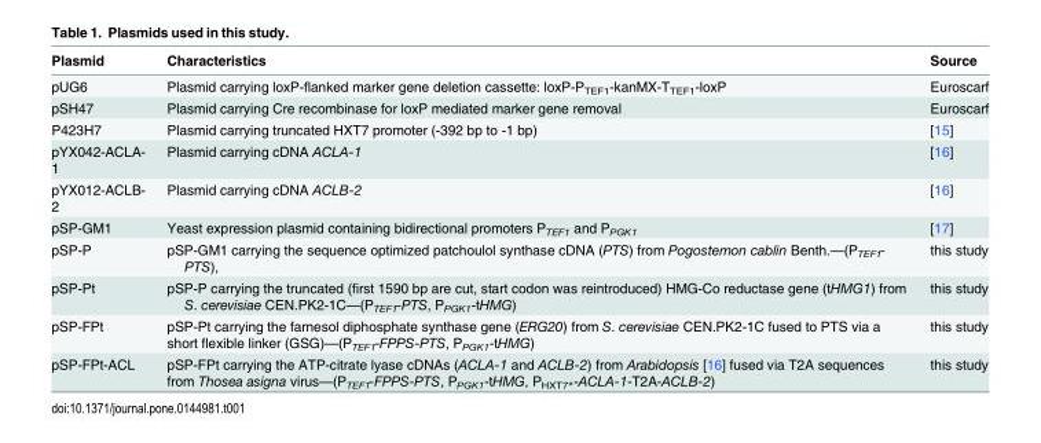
<table><thead><tr><td>Plasmid</td><td>Characteristics</td><td>Source</td></tr></thead><tbody><tr><td>pUG6</td><td>Plasmid carrying loxP-flanked marker gene deletion cassette: loxP-P<sub>TEF1</sub>-kanMX-T<sub>TEF1</sub>-loxP</td><td>Euroscarf</td></tr><tr><td>pSH47</td><td>Plasmid carrying Cre recombinase for loxP mediated marker gene removal</td><td>Euroscarf</td></tr><tr><td>P423H7</td><td>Plasmid carrying truncated HXT7 promoter (-392 bp to -1 bp)</td><td>[15]</td></tr><tr><td>pYX042-ACLA- 1</td><td>Plasmid carrying cDNA ACLA-1</td><td>[16]</td></tr><tr><td>pYX012-ACLB- 2</td><td>Plasmid carrying cDNA ACLB-2</td><td>[16]</td></tr><tr><td>pSP-GM1</td><td>Yeast expression plasmid containing bidirectional promoters P<sub>TEF1</sub> and P<sub>PGK1</sub></td><td>[17]</td></tr><tr><td>pSP-P</td><td>pSP-GM1 carrying the sequence optimized patchoulol synthase cDNA (PTS) from Pogostemon cablin Benth.—(P<sub>TEF1</sub>- PTS),</td><td>this study</td></tr><tr><td>pSP-Pt</td><td>pSP-P carrying the truncated (first 1590 bp are cut, start codon was reintroduced) HMG-Co reductase gene (tHMG1) from S. cerevisiae CEN.PK2-1C—(P<sub>TEF1</sub>-PTS, P<sub>PGK1</sub>-tHMG)</td><td>this study</td></tr><tr><td>pSP-FPt</td><td>pSP-Pt carrying the farnesol diphosphate synthase gene (ERG20) from S. cerevisiae CEN.PK2-1C fused to PTS via a short flexible linker (GSG)—(P<sub>TEF1</sub>-FPPS-PTS, P<sub>PGK1</sub>-tHMG)</td><td>this study</td></tr><tr><td>pSP-FPt-ACL</td><td>pSP-FPt carrying the ATP-citrate lyase cDNAs (ACLA-1 and ACLB-2) from Arabidopsis [16] fused via T2A sequences from Thosea asigna virus—(P<sub>TEF1</sub>-FPPS-PTS, P<sub>PGK1</sub>-tHMG, P<sub>HXT7*</sub>-ACLA-1-T2A-ACLB-2)</td><td>this study</td></tr></tbody></table>